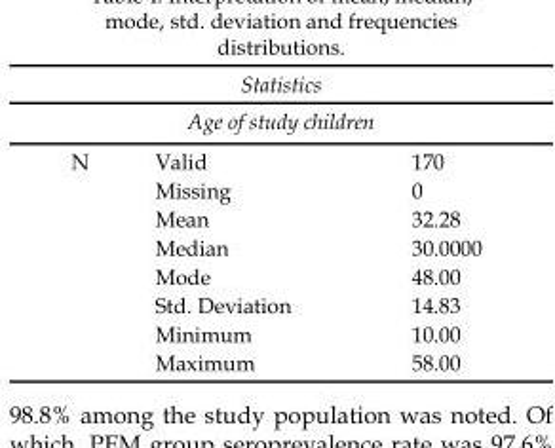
<table><thead><tr><td rowspan="2" colspan="3">Statistics Age of study children</td></tr><tr></tr><tr><td>N</td><td>Valid</td><td>170</td></tr></thead><tbody><tr><td></td><td>Missing</td><td>0</td></tr><tr><td></td><td>Mean</td><td>32.28</td></tr><tr><td></td><td>Median</td><td>30.0000</td></tr><tr><td></td><td>Mode</td><td>48.00</td></tr><tr><td></td><td>Std. Deviation</td><td>14.83</td></tr><tr><td></td><td>Minimum</td><td>10.00</td></tr><tr><td></td><td>Maximum</td><td>58.00</td></tr></tbody></table>